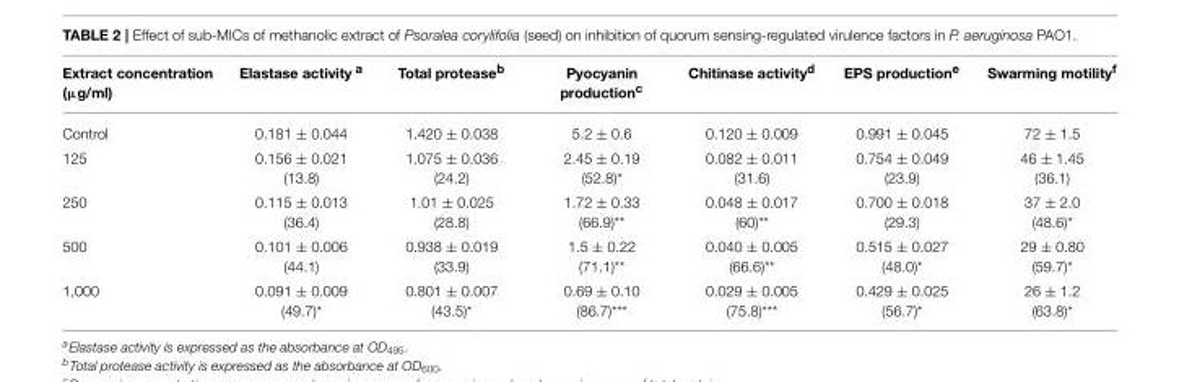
<table><thead><tr><td>Extract concentration (µg/ml)</td><td>Elastase activity <sup>a</sup></td><td>Total protease<sup>b</sup></td><td>Pyocyanin production<sup>c</sup></td><td>Chitinase activity<sup>d</sup></td><td>EPS production<sup>e</sup></td><td>Swarming motility<sup>f</sup></td></tr></thead><tbody><tr><td>Control</td><td>0.181 ± 0.044</td><td>1.420 ± 0.038</td><td>5.2 ± 0.6</td><td>0.120 ± 0.009</td><td>0.991 ± 0.045</td><td>72 ± 1.5</td></tr><tr><td>125</td><td>0.156 ± 0.021 (13.8)</td><td>1.075 ± 0.036 (24.2)</td><td>2.45 ± 0.19 (52.8)*</td><td>0.082 ± 0.011 (31.6)</td><td>0.754 ± 0.049 (23.9)</td><td>46 ± 1.45 (36.1)</td></tr><tr><td>250</td><td>0.115 ± 0.013 (36.4)</td><td>1.01 ± 0.025 (28.8)</td><td>1.72 ± 0.33 (66.9)**</td><td>0.048 ± 0.017 (60)**</td><td>0.700 ± 0.018 (29.3)</td><td>37 ± 2.0 (48.6)*</td></tr><tr><td>500</td><td>0.101 ± 0.006 (44.1)</td><td>0.938 ± 0.019 (33.9)</td><td>1.5 ± 0.22 (71.1)**</td><td>0.040 ± 0.005 (66.6)**</td><td>0.515 ± 0.027 (48.0)*</td><td>29 ± 0.80 (59.7)*</td></tr><tr><td>1,000</td><td>0.091 ± 0.009 (49.7)*</td><td>0.801 ± 0.007 (43.5)*</td><td>0.69 ± 0.10 (86.7)***</td><td>0.029 ± 0.005 (75.8)***</td><td>0.429 ± 0.025 (56.7)*</td><td>26 ± 1.2 (63.8)*</td></tr></tbody></table>